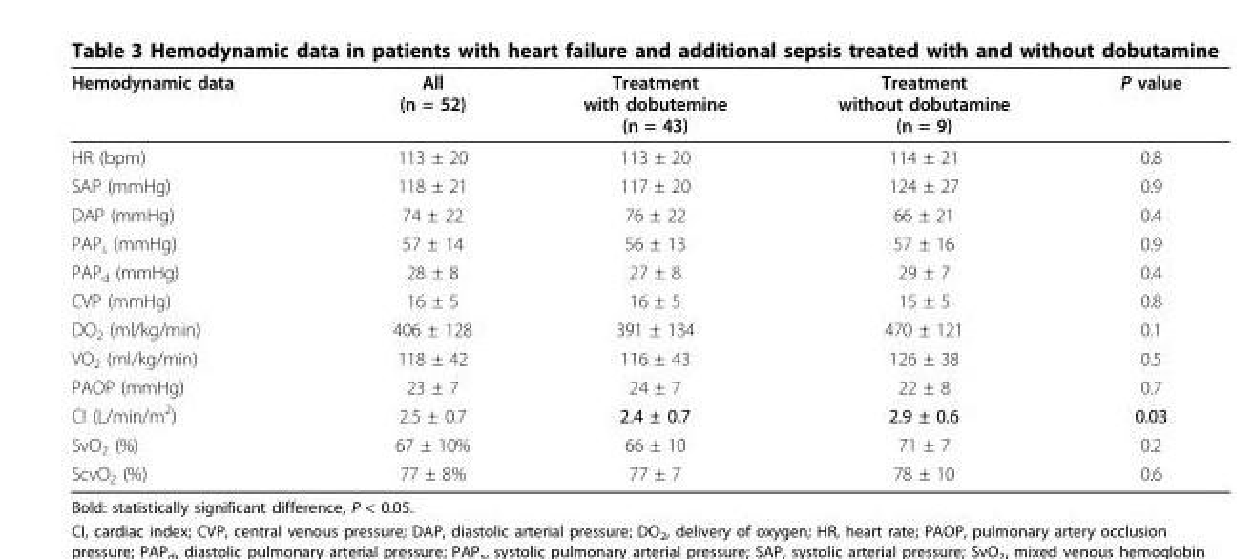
<table><thead><tr><td>Hemodynamic data</td><td>All (n = 52)</td><td>Treatment with dobutemine (n = 43)</td><td>Treatment without dobutamine (n = 9)</td><td>P value</td></tr></thead><tbody><tr><td>HR (bpm)</td><td>113 ± 20</td><td>113 ± 20</td><td>114 ± 21</td><td>0.8</td></tr><tr><td>SAP (mmHg)</td><td>118 ± 21</td><td>117 ± 20</td><td>124 ± 27</td><td>0.9</td></tr><tr><td>DAP (mmHg)</td><td>74 ± 22</td><td>76 ± 22</td><td>66 ± 21</td><td>0.4</td></tr><tr><td>PAP<sub>s</sub> (mmHg)</td><td>57 ± 14</td><td>56 ± 13</td><td>57 ± 16</td><td>0.9</td></tr><tr><td>PAP<sub>d</sub> (mmHg)</td><td>28 ± 8</td><td>27 ± 8</td><td>29 ± 7</td><td>0.4</td></tr><tr><td>CVP (mmHg)</td><td>16 ± 5</td><td>16 ± 5</td><td>15 ± 5</td><td>0.8</td></tr><tr><td>DO<sub>2</sub> (ml/kg/min)</td><td>406 ± 128</td><td>391 ± 134</td><td>470 ± 121</td><td>0.1</td></tr><tr><td>VO<sub>2</sub> (ml/kg/min)</td><td>118 ± 42</td><td>116 ± 43</td><td>126 ± 38</td><td>0.5</td></tr><tr><td>PAOP (mmHg)</td><td>23 ± 7</td><td>24 ± 7</td><td>22 ± 8</td><td>0.7</td></tr><tr><td>CI (L/min/m<sup>2</sup>)</td><td>2.5 ± 0.7</td><td>2.4 ± 0.7</td><td>2.9 ± 0.6</td><td>0.03</td></tr><tr><td>SvO<sub>2</sub> (%)</td><td>67 ± 10%</td><td>66 ± 10</td><td>71 ± 7</td><td>0.2</td></tr><tr><td>ScvO<sub>2</sub> (%)</td><td>77 ± 8%</td><td>77 ± 7</td><td>78 ± 10</td><td>0.6</td></tr></tbody></table>